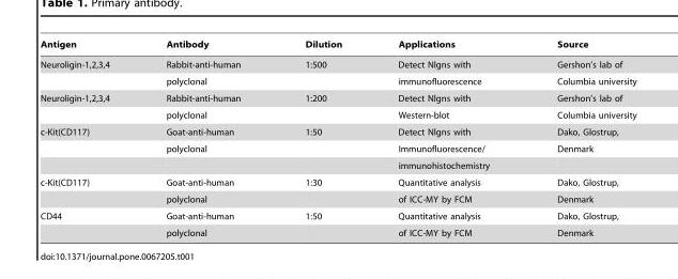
<table><thead><tr><td>Antigen</td><td>Antibody</td><td>Dilution</td><td>Applications</td><td>Source</td></tr></thead><tbody><tr><td rowspan="2">Neuroligin-1,2,3,4</td><td>Rabbit-anti-human</td><td>1:500</td><td>Detect Nlgns with</td><td>Gershon’s lab of</td></tr><tr><td>polyclonal</td><td></td><td>immunofluorescence</td><td>Columbia university</td></tr><tr><td rowspan="2">Neuroligin-1,2,3,4</td><td>Rabbit-anti-human</td><td>1:200</td><td>Detect Nlgns with</td><td>Gershon’s lab of</td></tr><tr><td>polyclonal</td><td></td><td>Western-blot</td><td>Columbia university</td></tr><tr><td rowspan="3">c-Kit(CD117)</td><td>Goat-anti-human</td><td>1:50</td><td>Detect Nlgns with</td><td>Dako, Glostrup,</td></tr><tr><td>polyclonal</td><td></td><td>Immunofluorescence/</td><td>Denmark</td></tr><tr><td></td><td></td><td>immunohistochemistry</td><td></td></tr><tr><td rowspan="2">c-Kit(CD117)</td><td>Goat-anti-human</td><td>1:30</td><td>Quantitative analysis</td><td>Dako, Glostrup,</td></tr><tr><td>polyclonal</td><td></td><td>of ICC-MY by FCM</td><td>Denmark</td></tr><tr><td rowspan="2">CD44</td><td>Goat-anti-human</td><td>1:50</td><td>Quantitative analysis</td><td>Dako, Glostrup,</td></tr><tr><td>polyclonal</td><td></td><td>of ICC-MY by FCM</td><td>Denmark</td></tr></tbody></table>